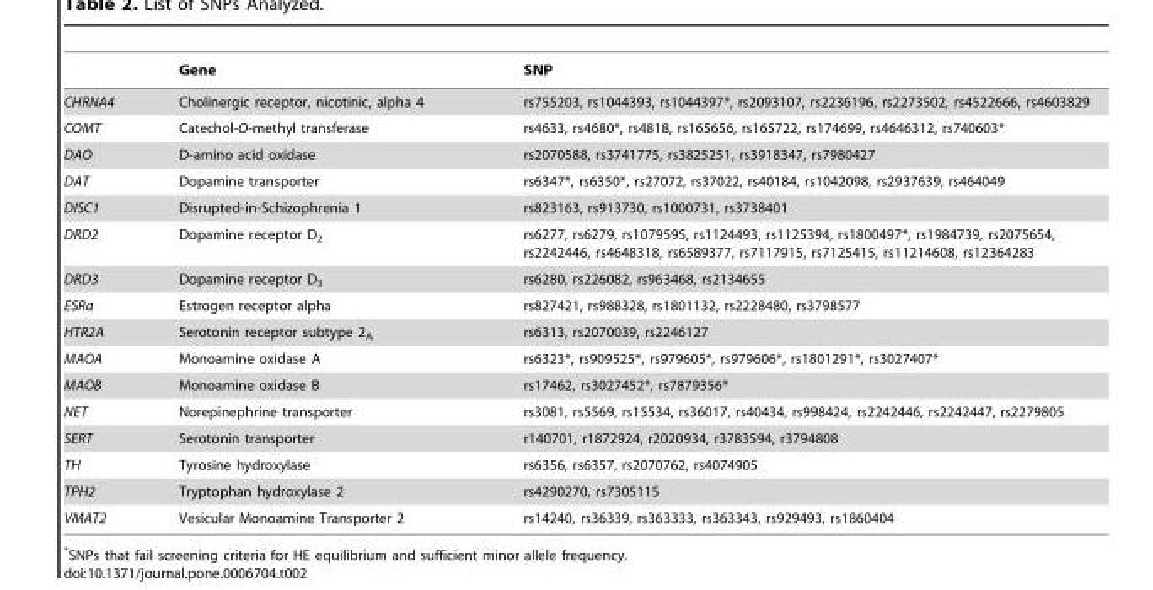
<table><thead><tr><td></td><td>Gene</td><td>SNP</td></tr></thead><tbody><tr><td>CHRNA4</td><td>Cholinergic receptor, nicotinic, alpha 4</td><td>rs755203, rs1044393, rs1044397*, rs2093107, rs2236196, rs2273502, rs4522666, rs4603829</td></tr><tr><td>COMT</td><td>Catechol-O-methyl transferase</td><td>rs4633, rs4680*, rs4818, rs165656, rs165722, rs174699, rs4646312, rs740603*</td></tr><tr><td>DAO</td><td>D-amino acid oxidase</td><td>rs2070588, rs3741775, rs3825251, rs3918347, rs7980427</td></tr><tr><td>DAT</td><td>Dopamine transporter</td><td>rs6347*, rs6350*, rs27072, rs37022, rs40184, rs1042098, rs2937639, rs464049</td></tr><tr><td>DISC1</td><td>Disrupted-in-Schizophrenia 1</td><td>rs823163, rs913730, rs1000731, rs3738401</td></tr><tr><td>DRD2</td><td>Dopamine receptor D<sub>2</sub></td><td>rs6277, rs6279, rs1079595, rs1124493, rs1125394, rs1800497*, rs1984739, rs2075654, rs2242446, rs4648318, rs6589377, rs7117915, rs7125415, rs11214608, rs12364283</td></tr><tr><td>DRD3</td><td>Dopamine receptor D<sub>3</sub></td><td>rs6280, rs226082, rs963468, rs2134655</td></tr><tr><td>ESRa</td><td>Estrogen receptor alpha</td><td>rs827421, rs988328, rs1801132, rs2228480, rs3798577</td></tr><tr><td>HTR2A</td><td>Serotonin receptor subtype 2<sub>A</sub></td><td>rs6313, rs2070039, rs2246127</td></tr><tr><td>MAOA</td><td>Monoamine oxidase A</td><td>rs6323*, rs909525*, rs979605*, rs979606*, rs1801291*, rs3027407*</td></tr><tr><td>MAOB</td><td>Monoamine oxidase B</td><td>rs17462, rs3027452*, rs7879356*</td></tr><tr><td>NET</td><td>Norepinephrine transporter</td><td>rs3081, rs5569, rs15534, rs36017, rs40434, rs998424, rs2242446, rs2242447, rs2279805</td></tr><tr><td>SERT</td><td>Serotonin transporter</td><td>r140701, r1872924, r2020934, r3783594, r3794808</td></tr><tr><td>TH</td><td>Tyrosine hydroxylase</td><td>rs6356, rs6357, rs2070762, rs4074905</td></tr><tr><td>TPH2</td><td>Tryptophan hydroxylase 2</td><td>rs4290270, rs7305115</td></tr><tr><td>VMAT2</td><td>Vesicular Monoamine Transporter 2</td><td>rs14240, rs36339, rs363333, rs363343, rs929493, rs1860404</td></tr></tbody></table>